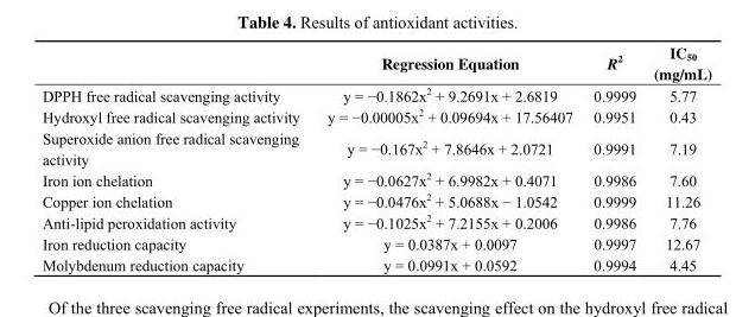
<table><thead><tr><td></td><td>Regression Equation</td><td>R<sup>2</sup></td><td>IC<sub>50</sub> (mg/mL)</td></tr></thead><tbody><tr><td>DPPH free radical scavenging activity</td><td>y = −0.1862x<sup>2</sup> + 9.2691x + 2.6819</td><td>0.9999</td><td>5.77</td></tr><tr><td>Hydroxyl free radical scavenging activity</td><td>y = −0.00005x<sup>2</sup> + 0.09694x + 17.56407</td><td>0.9951</td><td>0.43</td></tr><tr><td>Superoxide anion free radical scavenging activity</td><td>y = −0.167x<sup>2</sup> + 7.8646x + 2.0721</td><td>0.9991</td><td>7.19</td></tr><tr><td>Iron ion chelation</td><td>y = −0.0627x<sup>2</sup> + 6.9982x + 0.4071</td><td>0.9986</td><td>7.60</td></tr><tr><td>Copper ion chelation</td><td>y = −0.0476x<sup>2</sup> + 5.0688x − 1.0542</td><td>0.9999</td><td>11.26</td></tr><tr><td>Anti-lipid peroxidation activity</td><td>y = −0.1025x<sup>2</sup> + 7.2155x + 0.2006</td><td>0.9986</td><td>7.76</td></tr><tr><td>Iron reduction capacity</td><td>y = 0.0387x + 0.0097</td><td>0.9997</td><td>12.67</td></tr><tr><td>Molybdenum reduction capacity</td><td>y = 0.0991x + 0.0592</td><td>0.9994</td><td>4.45</td></tr></tbody></table>